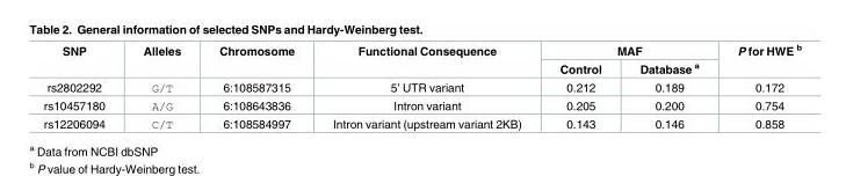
<table><thead><tr><td rowspan="2">SNP</td><td rowspan="2">Alleles</td><td rowspan="2">Chromosome</td><td rowspan="2">Functional Consequence</td><td colspan="2">MAF</td><td rowspan="2">P for HWE <sup>b</sup></td></tr><tr><td>Control</td><td>Database <sup>a</sup></td></tr></thead><tbody><tr><td>rs2802292</td><td>G/T</td><td>6:108587315</td><td>5’ UTR variant</td><td>0.212</td><td>0.189</td><td>0.172</td></tr><tr><td>rs10457180</td><td>A/G</td><td>6:108643836</td><td>Intron variant</td><td>0.205</td><td>0.200</td><td>0.754</td></tr><tr><td>rs12206094</td><td>C/T</td><td>6:108584997</td><td>Intron variant (upstream variant 2KB)</td><td>0.143</td><td>0.146</td><td>0.858</td></tr></tbody></table>